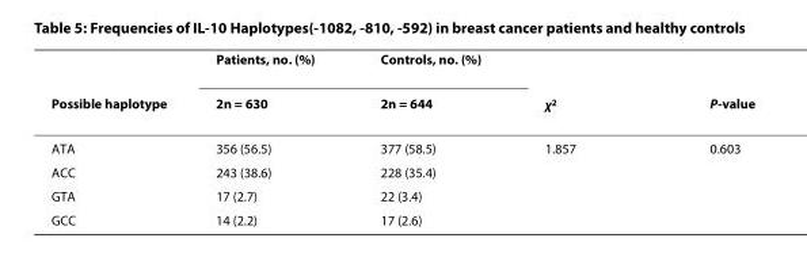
<table><thead><tr><td rowspan="2">Possible haplotype</td><td rowspan="2">Patients, no. (%) 2n = 630</td><td rowspan="2">Controls, no. (%) 2n = 644</td><td rowspan="2">χ<sup>2</sup></td><td rowspan="2">P-value</td></tr><tr></tr></thead><tbody><tr><td>ATA</td><td>356 (56.5)</td><td>377 (58.5)</td><td>1.857</td><td>0.603</td></tr><tr><td>ACC</td><td>243 (38.6)</td><td>228 (35.4)</td><td></td><td></td></tr><tr><td>GTA</td><td>17 (2.7)</td><td>22 (3.4)</td><td></td><td></td></tr><tr><td>GCC</td><td>14 (2.2)</td><td>17 (2.6)</td><td></td><td></td></tr></tbody></table>